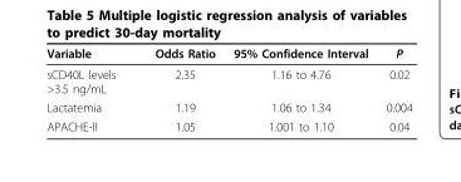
<table><thead><tr><td>Variable</td><td>Odds Ratio</td><td>95% Confidence Interval</td><td>P</td></tr></thead><tbody><tr><td>sCD40L levels &gt;3.5 ng/mL</td><td>2.35</td><td>1.16 to 4.76</td><td>0.02</td></tr><tr><td>Lactatemia</td><td>1.19</td><td>1.06 to 1.34</td><td>0.004</td></tr><tr><td>APACHE-II</td><td>1.05</td><td>1.001 to 1.10</td><td>0.04</td></tr></tbody></table>